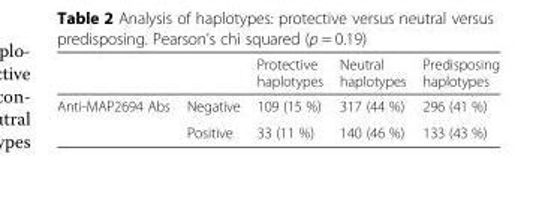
<table><thead><tr><td></td><td></td><td>Protective haplotypes</td><td>Neutral haplotypes</td><td>Predisposing haplotypes</td></tr></thead><tbody><tr><td rowspan="2">Anti-MAP2694 Abs</td><td>Negative</td><td>109 (15 %)</td><td>317 (44 %)</td><td>296 (41 %)</td></tr><tr><td>Positive</td><td>33 (11 %)</td><td>140 (46 %)</td><td>133 (43 %)</td></tr></tbody></table>